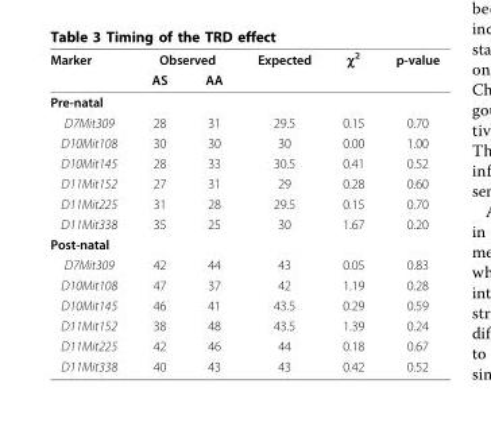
<table><thead><tr><td rowspan="2">Marker</td><td colspan="2">Observed</td><td rowspan="2">Expected</td><td rowspan="2">χ<sup>2</sup></td><td rowspan="2">p-value</td></tr><tr><td>AS</td><td>AA</td></tr></thead><tbody><tr><td colspan="6">Pre-natal</td></tr><tr><td>D7Mit309</td><td>28</td><td>31</td><td>29.5</td><td>0.15</td><td>0.70</td></tr><tr><td>D10Mit108</td><td>30</td><td>30</td><td>30</td><td>0.00</td><td>1.00</td></tr><tr><td>D10Mit145</td><td>28</td><td>33</td><td>30.5</td><td>0.41</td><td>0.52</td></tr><tr><td>D11Mit152</td><td>27</td><td>31</td><td>29</td><td>0.28</td><td>0.60</td></tr><tr><td>D11Mit225</td><td>31</td><td>28</td><td>29.5</td><td>0.15</td><td>0.70</td></tr><tr><td>D11Mit338</td><td>35</td><td>25</td><td>30</td><td>1.67</td><td>0.20</td></tr><tr><td colspan="6">Post-natal</td></tr><tr><td>D7Mit309</td><td>42</td><td>44</td><td>43</td><td>0.05</td><td>0.83</td></tr><tr><td>D10Mit108</td><td>47</td><td>37</td><td>42</td><td>1.19</td><td>0.28</td></tr><tr><td>D10Mit145</td><td>46</td><td>41</td><td>43.5</td><td>0.29</td><td>0.59</td></tr><tr><td>D11Mit152</td><td>38</td><td>48</td><td>43.5</td><td>1.39</td><td>0.24</td></tr><tr><td>D11Mit225</td><td>42</td><td>46</td><td>44</td><td>0.18</td><td>0.67</td></tr><tr><td>D11Mit338</td><td>40</td><td>43</td><td>43</td><td>0.42</td><td>0.52</td></tr></tbody></table>